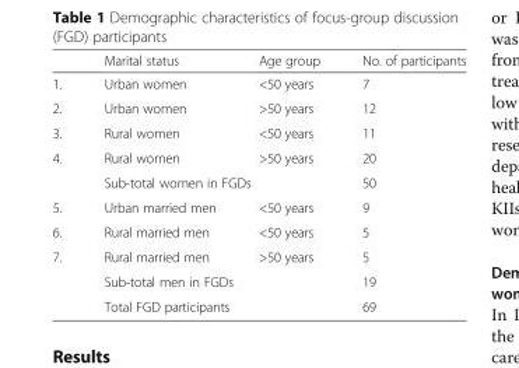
<table><thead><tr><td></td><td>Marital status</td><td>Age group</td><td>No. of participants</td></tr></thead><tbody><tr><td>1.</td><td>Urban women</td><td>&lt;50 years</td><td>7</td></tr><tr><td>2.</td><td>Urban women</td><td>&gt;50 years</td><td>12</td></tr><tr><td>3.</td><td>Rural women</td><td>&lt;50 years</td><td>11</td></tr><tr><td rowspan="2">4.</td><td>Rural women</td><td>&gt;50 years</td><td>20</td></tr><tr><td colspan="2">Sub-total women in FGDs</td><td>50</td></tr><tr><td>5.</td><td>Urban married men</td><td>&lt;50 years</td><td>9</td></tr><tr><td>6.</td><td>Rural married men</td><td>&lt;50 years</td><td>5</td></tr><tr><td rowspan="3">7.</td><td>Rural married men</td><td>&gt;50 years</td><td>5</td></tr><tr><td colspan="2">Sub-total men in FGDs</td><td>19</td></tr><tr><td colspan="2">Total FGD participants</td><td>69</td></tr></tbody></table>